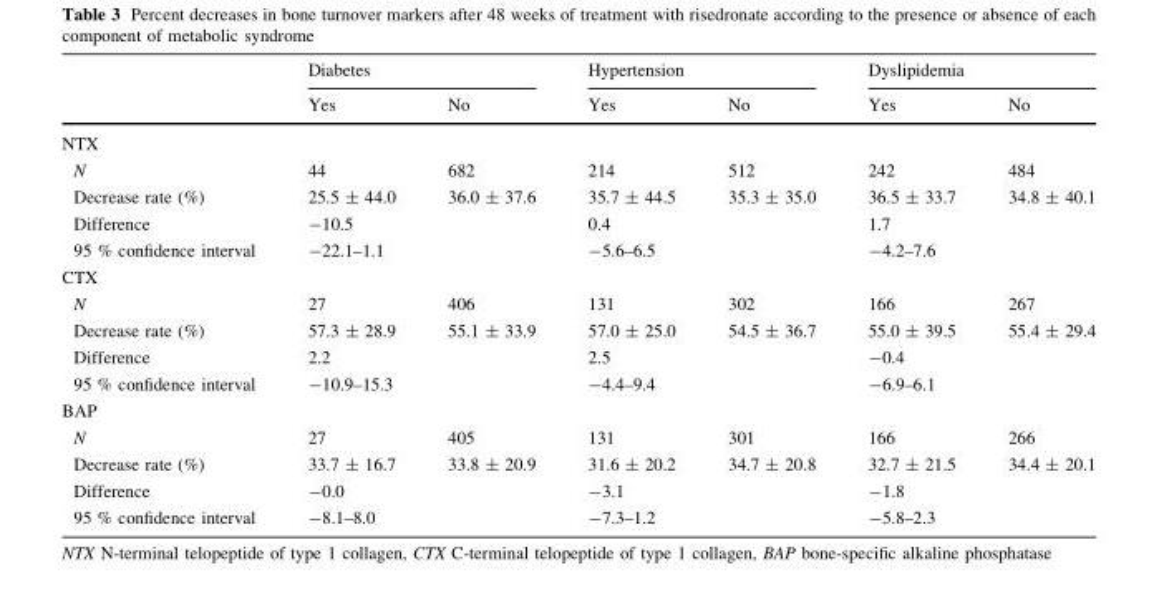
<table><thead><tr><td rowspan="2"></td><td colspan="2">Diabetes</td><td colspan="2">Hypertension</td><td colspan="2">Dyslipidemia</td></tr><tr><td>Yes</td><td>No</td><td>Yes</td><td>No</td><td>Yes</td><td>No</td></tr></thead><tbody><tr><td colspan="7">NTX</td></tr><tr><td>N</td><td>44</td><td>682</td><td>214</td><td>512</td><td>242</td><td>484</td></tr><tr><td>Decrease rate (%)</td><td>25.5 ± 44.0</td><td>36.0 ± 37.6</td><td>35.7 ± 44.5</td><td>35.3 ± 35.0</td><td>36.5 ± 33.7</td><td>34.8 ± 40.1</td></tr><tr><td>Difference</td><td colspan="2">-10.5</td><td colspan="2">0.4</td><td colspan="2">1.7</td></tr><tr><td>95 % confidence interval</td><td colspan="2">-22.1–1.1</td><td colspan="2">-5.6–6.5</td><td colspan="2">-4.2–7.6</td></tr><tr><td colspan="7">CTX</td></tr><tr><td>N</td><td>27</td><td>406</td><td>131</td><td>302</td><td>166</td><td>267</td></tr><tr><td>Decrease rate (%)</td><td>57.3 ± 28.9</td><td>55.1 ± 33.9</td><td>57.0 ± 25.0</td><td>54.5 ± 36.7</td><td>55.0 ± 39.5</td><td>55.4 ± 29.4</td></tr><tr><td>Difference</td><td colspan="2">2.2</td><td colspan="2">2.5</td><td colspan="2">-0.4</td></tr><tr><td>95 % confidence interval</td><td colspan="2">-10.9–15.3</td><td colspan="2">-4.4–9.4</td><td colspan="2">-6.9–6.1</td></tr><tr><td colspan="7">BAP</td></tr><tr><td>N</td><td>27</td><td>405</td><td>131</td><td>301</td><td>166</td><td>266</td></tr><tr><td>Decrease rate (%)</td><td>33.7 ± 16.7</td><td>33.8 ± 20.9</td><td>31.6 ± 20.2</td><td>34.7 ± 20.8</td><td>32.7 ± 21.5</td><td>34.4 ± 20.1</td></tr><tr><td>Difference</td><td colspan="2">-0.0</td><td colspan="2">-3.1</td><td colspan="2">-1.8</td></tr><tr><td>95 % confidence interval</td><td colspan="2">-8.1–8.0</td><td colspan="2">-7.3–1.2</td><td colspan="2">-5.8–2.3</td></tr></tbody></table>